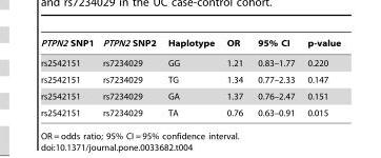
<table><thead><tr><td>PTPN2 SNP1</td><td>PTPN2 SNP2</td><td>Haplotype</td><td>OR</td><td>95% CI</td><td>p-value</td></tr></thead><tbody><tr><td>rs2542151</td><td>rs7234029</td><td>GG</td><td>1.21</td><td>0.83–1.77</td><td>0.220</td></tr><tr><td>rs2542151</td><td>rs7234029</td><td>TG</td><td>1.34</td><td>0.77–2.33</td><td>0.147</td></tr><tr><td>rs2542151</td><td>rs7234029</td><td>GA</td><td>1.37</td><td>0.76–2.47</td><td>0.151</td></tr><tr><td>rs2542151</td><td>rs7234029</td><td>TA</td><td>0.76</td><td>0.63–0.91</td><td>0.015</td></tr></tbody></table>